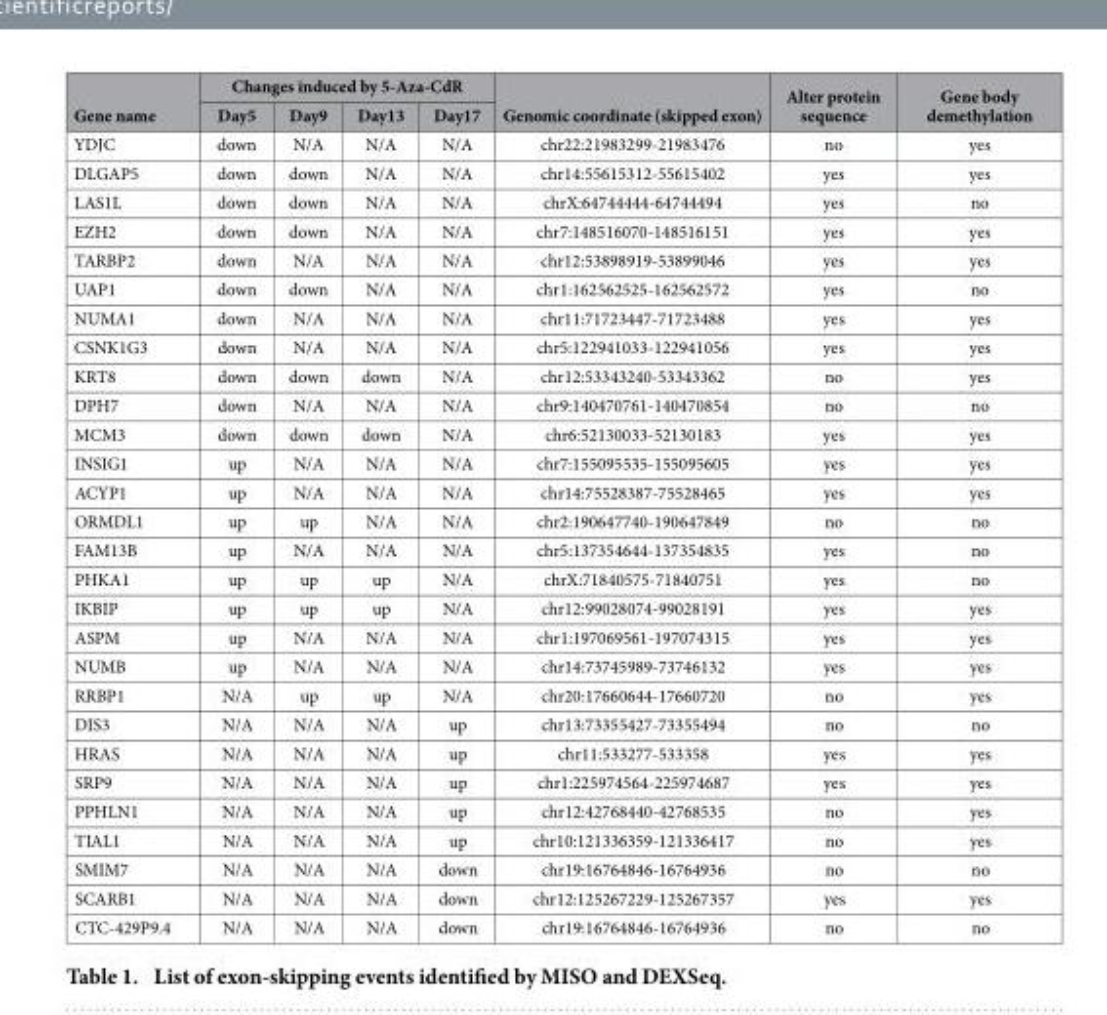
<table><thead><tr><td rowspan="2">Gene name</td><td colspan="4">Changes induced by 5-Aza-CdR</td><td rowspan="2">Genomic coordinate (skipped exon)</td><td rowspan="2">Alter protein sequence</td><td rowspan="2">Gene body demethylation</td></tr><tr><td>Day5</td><td>Day9</td><td>Day13</td><td>Day17</td></tr></thead><tbody><tr><td>YDJC</td><td>down</td><td>N/A</td><td>N/A</td><td>N/A</td><td>chr22:21983299-21983476</td><td>no</td><td>yes</td></tr><tr><td>DLGAP5</td><td>down</td><td>down</td><td>N/A</td><td>N/A</td><td>chr14:55615312-55615402</td><td>yes</td><td>yes</td></tr><tr><td>LAS1L</td><td>down</td><td>down</td><td>N/A</td><td>N/A</td><td>chrX:64744444-64744494</td><td>yes</td><td>no</td></tr><tr><td>EZH2</td><td>down</td><td>down</td><td>N/A</td><td>N/A</td><td>chr7:148516070-148516151</td><td>yes</td><td>yes</td></tr><tr><td>TARBP2</td><td>down</td><td>N/A</td><td>N/A</td><td>N/A</td><td>chr12:53898919-53899046</td><td>yes</td><td>yes</td></tr><tr><td>UAP1</td><td>down</td><td>down</td><td>N/A</td><td>N/A</td><td>chr1:162562525-162562572</td><td>yes</td><td>no</td></tr><tr><td>NUMA1</td><td>down</td><td>N/A</td><td>N/A</td><td>N/A</td><td>chr11:71723447-71723488</td><td>yes</td><td>yes</td></tr><tr><td>CSNK1G3</td><td>down</td><td>N/A</td><td>N/A</td><td>N/A</td><td>chr5:122941033-122941056</td><td>yes</td><td>yes</td></tr><tr><td>KRT8</td><td>down</td><td>down</td><td>down</td><td>N/A</td><td>chr12:53343240-53343362</td><td>no</td><td>yes</td></tr><tr><td>DPH7</td><td>down</td><td>N/A</td><td>N/A</td><td>N/A</td><td>chr9:140470761-140470854</td><td>no</td><td>no</td></tr><tr><td>MCM3</td><td>down</td><td>down</td><td>down</td><td>N/A</td><td>chr6:52130033-52130183</td><td>yes</td><td>yes</td></tr><tr><td>INSIG1</td><td>up</td><td>N/A</td><td>N/A</td><td>N/A</td><td>chr7:155095535-155095605</td><td>yes</td><td>yes</td></tr><tr><td>ACYP1</td><td>up</td><td>N/A</td><td>N/A</td><td>N/A</td><td>chr14:75528387-75528465</td><td>yes</td><td>yes</td></tr><tr><td>ORMDL1</td><td>up</td><td>up</td><td>N/A</td><td>N/A</td><td>chr2:190647740-190647849</td><td>no</td><td>no</td></tr><tr><td>FAM13B</td><td>up</td><td>N/A</td><td>N/A</td><td>N/A</td><td>chr5:137354644-137354835</td><td>yes</td><td>no</td></tr><tr><td>PHKA1</td><td>up</td><td>up</td><td>up</td><td>N/A</td><td>chrX:71840575-71840751</td><td>yes</td><td>no</td></tr><tr><td>IKBIP</td><td>up</td><td>up</td><td>up</td><td>N/A</td><td>chr12:99028074-99028191</td><td>yes</td><td>yes</td></tr><tr><td>ASPM</td><td>up</td><td>N/A</td><td>N/A</td><td>N/A</td><td>chr1:197069561-197074315</td><td>yes</td><td>yes</td></tr><tr><td>NUMB</td><td>up</td><td>N/A</td><td>N/A</td><td>N/A</td><td>chr14:73745989-73746132</td><td>yes</td><td>yes</td></tr><tr><td>RRBP1</td><td>N/A</td><td>up</td><td>up</td><td>N/A</td><td>chr20:17660644-17660720</td><td>no</td><td>yes</td></tr><tr><td>DIS3</td><td>N/A</td><td>N/A</td><td>N/A</td><td>up</td><td>chr13:73355427-73355494</td><td>no</td><td>no</td></tr><tr><td>HRAS</td><td>N/A</td><td>N/A</td><td>N/A</td><td>up</td><td>chr11:533277-533358</td><td>yes</td><td>yes</td></tr><tr><td>SRP9</td><td>N/A</td><td>N/A</td><td>N/A</td><td>up</td><td>chr1:225974564-225974687</td><td>yes</td><td>yes</td></tr><tr><td>PPHLN1</td><td>N/A</td><td>N/A</td><td>N/A</td><td>up</td><td>chr12:42768440-42768535</td><td>no</td><td>yes</td></tr><tr><td>TIAL1</td><td>N/A</td><td>N/A</td><td>N/A</td><td>up</td><td>chr10:121336359-121336417</td><td>no</td><td>yes</td></tr><tr><td>SMIM7</td><td>N/A</td><td>N/A</td><td>N/A</td><td>down</td><td>chr19:16764846-16764936</td><td>no</td><td>no</td></tr><tr><td>SCARB1</td><td>N/A</td><td>N/A</td><td>N/A</td><td>down</td><td>chr12:125267229-125267357</td><td>yes</td><td>yes</td></tr><tr><td>CTC-429P9.4</td><td>N/A</td><td>N/A</td><td>N/A</td><td>down</td><td>chr19:16764846-16764936</td><td>no</td><td>no</td></tr></tbody></table>